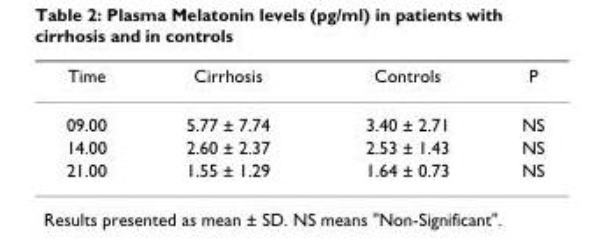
<table><thead><tr><td>Time</td><td>Cirrhosis</td><td>Controls</td><td>P</td></tr></thead><tbody><tr><td>09.00</td><td>5.77 ± 7.74</td><td>3.40 ± 2.71</td><td>NS</td></tr><tr><td>14.00</td><td>2.60 ± 2.37</td><td>2.53 ± 1.43</td><td>NS</td></tr><tr><td>21.00</td><td>1.55 ± 1.29</td><td>1.64 ± 0.73</td><td>NS</td></tr></tbody></table>